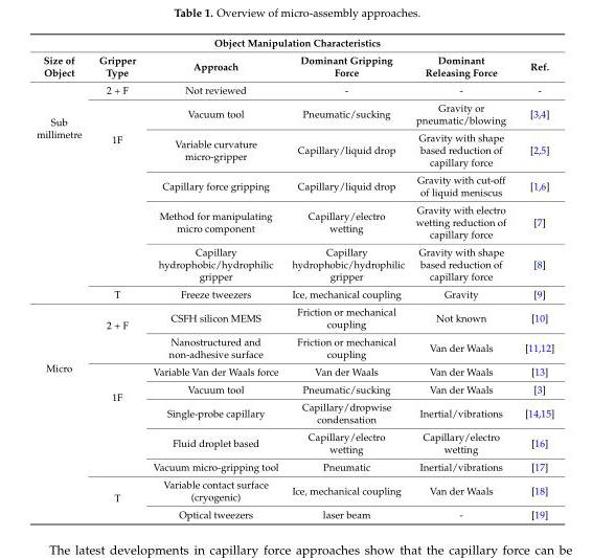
<table><thead><tr><td colspan="6">Object Manipulation Characteristics</td></tr><tr><td>Size of Object</td><td>Gripper Type</td><td>Approach</td><td>Dominant Gripping Force</td><td>Dominant Releasing Force</td><td>Ref.</td></tr></thead><tbody><tr><td rowspan="7">Sub millimetre</td><td>2 + F</td><td>Not reviewed</td><td>-</td><td>-</td><td>-</td></tr><tr><td rowspan="5">1F</td><td>Vacuum tool</td><td>Pneumatic/sucking</td><td>Gravity or pneumatic/blowing</td><td>[3,4]</td></tr><tr><td>Variable curvature micro-gripper</td><td>Capillary/liquid drop</td><td>Gravity with shape based reduction of capillary force</td><td>[2,5]</td></tr><tr><td>Capillary force gripping</td><td>Capillary/liquid drop</td><td>Gravity with cut-off of liquid meniscus</td><td>[1,6]</td></tr><tr><td>Method for manipulating micro component</td><td>Capillary/electro wetting</td><td>Gravity with electro wetting reduction of capillary force</td><td>[7]</td></tr><tr><td>Capillary hydrophobic/hydrophilic gripper</td><td>Capillary hydrophobic/hydrophilic gripper</td><td>Gravity with shape based reduction of capillary force</td><td>[8]</td></tr><tr><td>T</td><td>Freeze tweezers</td><td>Ice, mechanical coupling</td><td>Gravity</td><td>[9]</td></tr><tr><td rowspan="9">Micro</td><td rowspan="2">2 + F</td><td>CSFH silicon MEMS</td><td>Friction or mechanical coupling</td><td>Not known</td><td>[10]</td></tr><tr><td>Nanostructured and non-adhesive surface</td><td>Friction or mechanical coupling</td><td>Van der Waals</td><td>[11,12]</td></tr><tr><td rowspan="5">1F</td><td>Variable Van der Waals force</td><td>Van der Waals</td><td>Van der Waals</td><td>[13]</td></tr><tr><td>Vacuum tool</td><td>Pneumatic/sucking</td><td>Van der Waals</td><td>[3]</td></tr><tr><td>Single-probe capillary</td><td>Capillary/dropwise condensation</td><td>Inertial/vibrations</td><td>[14,15]</td></tr><tr><td>Fluid droplet based</td><td>Capillary/electro wetting</td><td>Capillary/electro wetting</td><td>[16]</td></tr><tr><td>Vacuum micro-gripping tool</td><td>Pneumatic</td><td>Inertial/vibrations</td><td>[17]</td></tr><tr><td rowspan="2">T</td><td>Variable contact surface (cryogenic)</td><td>Ice, mechanical coupling</td><td>Van der Waals</td><td>[18]</td></tr><tr><td>Optical tweezers</td><td>laser beam</td><td>-</td><td>[19]</td></tr></tbody></table>